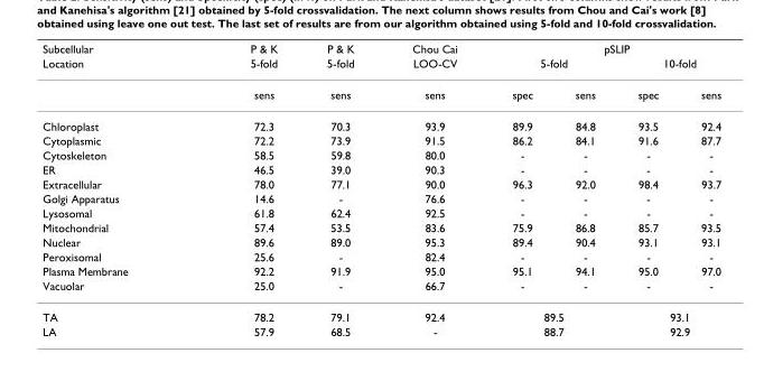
<table><thead><tr><td rowspan="3">Subcellular Location</td><td rowspan="3">P &amp; K 5-fold sens</td><td rowspan="3">P &amp; K 5-fold sens</td><td rowspan="3">Chou Cai LOO-CV sens</td><td colspan="4">pSLIP</td></tr><tr><td colspan="2">5-fold</td><td colspan="2">10-fold</td></tr><tr><td>spec</td><td>sens</td><td>spec</td><td>sens</td></tr></thead><tbody><tr><td>Chloroplast</td><td>72.3</td><td>70.3</td><td>93.9</td><td>89.9</td><td>84.8</td><td>93.5</td><td>92.4</td></tr><tr><td>Cytoplasmic</td><td>72.2</td><td>73.9</td><td>91.5</td><td>86.2</td><td>84.1</td><td>91.6</td><td>87.7</td></tr><tr><td>Cytoskeleton</td><td>58.5</td><td>59.8</td><td>80.0</td><td>-</td><td>-</td><td>-</td><td>-</td></tr><tr><td>ER</td><td>46.5</td><td>39.0</td><td>90.3</td><td>-</td><td>-</td><td>-</td><td>-</td></tr><tr><td>Extracellular</td><td>78.0</td><td>77.1</td><td>90.0</td><td>96.3</td><td>92.0</td><td>98.4</td><td>93.7</td></tr><tr><td>Golgi Apparatus</td><td>14.6</td><td>-</td><td>76.6</td><td>-</td><td>-</td><td>-</td><td>-</td></tr><tr><td>Lysosomal</td><td>61.8</td><td>62.4</td><td>92.5</td><td>-</td><td>-</td><td>-</td><td>-</td></tr><tr><td>Mitochondrial</td><td>57.4</td><td>53.5</td><td>83.6</td><td>75.9</td><td>86.8</td><td>85.7</td><td>93.5</td></tr><tr><td>Nuclear</td><td>89.6</td><td>89.0</td><td>95.3</td><td>89.4</td><td>90.4</td><td>93.1</td><td>93.1</td></tr><tr><td>Peroxisomal</td><td>25.6</td><td>-</td><td>82.4</td><td>-</td><td>-</td><td>-</td><td>-</td></tr><tr><td>Plasma Membrane</td><td>92.2</td><td>91.9</td><td>95.0</td><td>95.1</td><td>94.1</td><td>95.0</td><td>97.0</td></tr><tr><td>Vacuolar</td><td>25.0</td><td>-</td><td>66.7</td><td>-</td><td>-</td><td>-</td><td>-</td></tr><tr><td>TA</td><td>78.2</td><td>79.1</td><td>92.4</td><td colspan="2">89.5</td><td colspan="2">93.1</td></tr><tr><td>LA</td><td>57.9</td><td>68.5</td><td>-</td><td colspan="2">88.7</td><td colspan="2">92.9</td></tr></tbody></table>